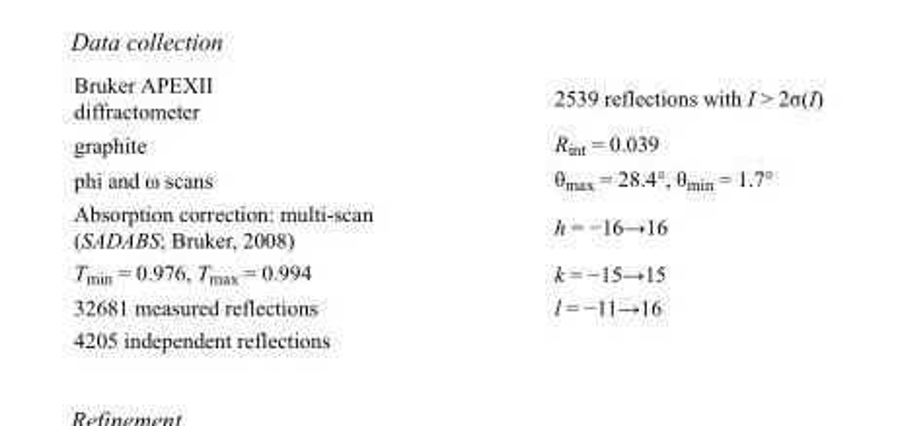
<table><tbody><tr><td>Bruker APEXII diffractometer</td><td>2539 reflections with I &gt; 2σ(I)</td></tr><tr><td>graphite</td><td>R<sub>int</sub> = 0.039</td></tr><tr><td>phi and ω scans</td><td>θ<sub>max</sub> = 28.4°, θ<sub>min</sub> = 1.7°</td></tr><tr><td>Absorption correction: multi-scan (SADABS; Bruker, 2008)</td><td>h = −16→16</td></tr><tr><td>T<sub>min</sub> = 0.976, T<sub>max</sub> = 0.994</td><td>k = −15→15</td></tr><tr><td>32681 measured reflections</td><td>l = −11→16</td></tr><tr><td>4205 independent reflections</td><td></td></tr></tbody></table>